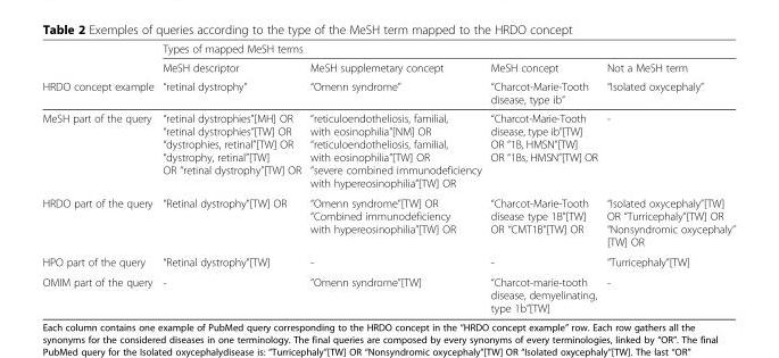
<table><thead><tr><td rowspan="3">HRDO concept example</td><td colspan="4">Types of mapped MeSH terms</td></tr><tr><td rowspan="2">MeSH descriptor “retinal dystrophy”</td><td rowspan="2">MeSH supplemetary concept “Omenn syndrome”</td><td rowspan="2">MeSH concept “Charcot-Marie-Tooth disease, type ib”</td><td rowspan="2">Not a MeSH term “Isolated oxycephaly”</td></tr><tr></tr></thead><tbody><tr><td>MeSH part of the query</td><td>“retinal dystrophies”[MH] OR “retinal dystrophies”[TW] OR “dystrophies, retinal”[TW] OR “dystrophy, retinal”[TW] OR “retinal dystrophy”[TW] OR</td><td>“reticuloendotheliosis, familial, with eosinophilia”[NM] OR “reticuloendotheliosis, familial, with eosinophilia”[TW] OR “severe combined immunodeficiency with hypereosinophilia”[TW] OR</td><td>“Charcot-Marie-Tooth disease, type ib”[TW] OR “1B, HMSN”[TW] OR “1Bs, HMSN”[TW] OR</td><td>-</td></tr><tr><td>HRDO part of the query</td><td>“Retinal dystrophy”[TW] OR</td><td>“Omenn syndrome”[TW] OR “Combined immunodeficiency with hypereosinophilia”[TW] OR</td><td>“Charcot-Marie-Tooth disease type 1B”[TW] OR “CMT1B”[TW] OR</td><td>“Isolated oxycephaly”[TW] OR “Turricephaly”[TW] OR “Nonsyndromic oxycephaly” [TW] OR</td></tr><tr><td>HPO part of the query</td><td>“Retinal dystrophy”[TW]</td><td>-</td><td>-</td><td>“Turricephaly”[TW]</td></tr><tr><td>OMIM part of the query</td><td>-</td><td>“Omenn syndrome”[TW]</td><td>“Charcot-marie-tooth disease, demyelinating, type 1b”[TW]</td><td>-</td></tr></tbody></table>